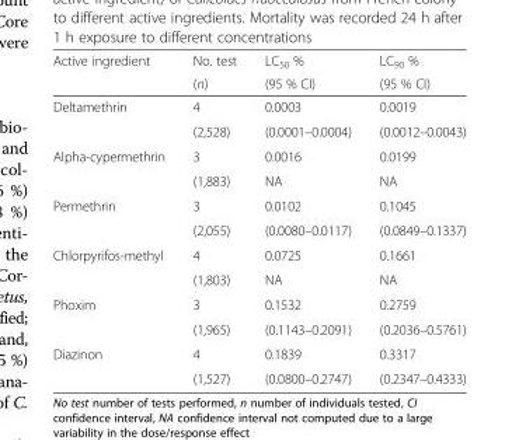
<table><thead><tr><td rowspan="2">Active ingredient</td><td rowspan="2">No. test (n)</td><td rowspan="2">LC<sub>50</sub> % (95 % CI)</td><td rowspan="2">LC<sub>90</sub> % (95 % CI)</td></tr><tr></tr></thead><tbody><tr><td rowspan="2">Deltamethrin</td><td>4</td><td>0.0003</td><td>0.0019</td></tr><tr><td>(2,528)</td><td>(0.0001–0.0004)</td><td>(0.0012–0.0043)</td></tr><tr><td rowspan="2">Alpha-cypermethrin</td><td>3</td><td>0.0016</td><td>0.0199</td></tr><tr><td>(1,883)</td><td>NA</td><td>NA</td></tr><tr><td rowspan="2">Permethrin</td><td>3</td><td>0.0102</td><td>0.1045</td></tr><tr><td>(2,055)</td><td>(0.0080–0.0117)</td><td>(0.0849–0.1337)</td></tr><tr><td rowspan="2">Chlorpyrifos-methyl</td><td>4</td><td>0.0725</td><td>0.1661</td></tr><tr><td>(1,803)</td><td>NA</td><td>NA</td></tr><tr><td rowspan="2">Phoxim</td><td>3</td><td>0.1532</td><td>0.2759</td></tr><tr><td>(1,965)</td><td>(0.1143–0.2091)</td><td>(0.2036–0.5761)</td></tr><tr><td rowspan="2">Diazinon</td><td>4</td><td>0.1839</td><td>0.3317</td></tr><tr><td>(1,527)</td><td>(0.0800–0.2747)</td><td>(0.2347–0.4333)</td></tr></tbody></table>